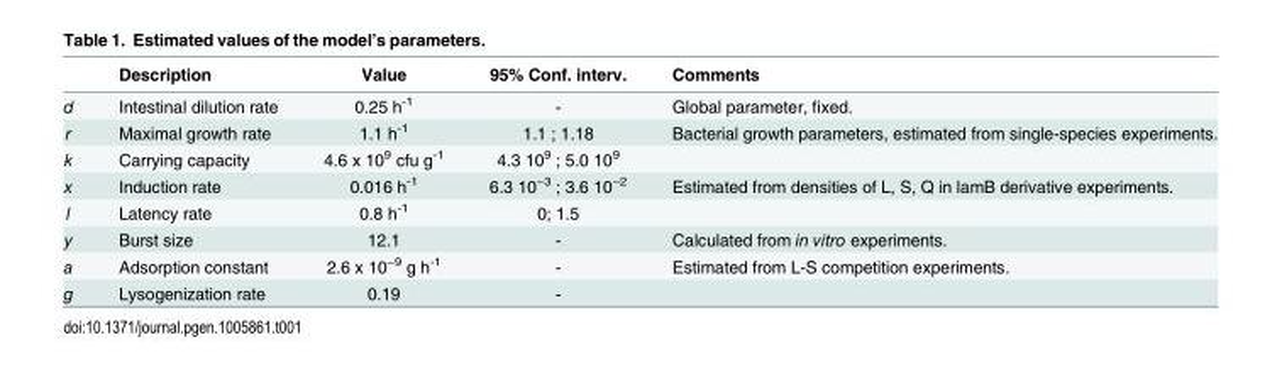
<table><thead><tr><td></td><td>Description</td><td>Value</td><td>95% Conf. interv.</td><td>Comments</td></tr></thead><tbody><tr><td>d</td><td>Intestinal dilution rate</td><td>0.25 h<sup>-1</sup></td><td>-</td><td>Global parameter, fixed.</td></tr><tr><td>r</td><td>Maximal growth rate</td><td>1.1 h<sup>-1</sup></td><td>1.1 ; 1.18</td><td>Bacterial growth parameters, estimated from single-species experiments.</td></tr><tr><td>k</td><td>Carrying capacity</td><td>4.6 x 10<sup>9</sup> cfu g<sup>-1</sup></td><td>4.3 10<sup>9</sup> ; 5.0 10<sup>9</sup></td><td></td></tr><tr><td>x</td><td>Induction rate</td><td>0.016 h<sup>-1</sup></td><td>6.3 10<sup>−3</sup> ; 3.6 10<sup>−2</sup></td><td>Estimated from densities of L, S, Q in lamB derivative experiments.</td></tr><tr><td>l</td><td>Latency rate</td><td>0.8 h<sup>-1</sup></td><td>0; 1.5</td><td></td></tr><tr><td>y</td><td>Burst size</td><td>12.1</td><td>-</td><td>Calculated from in vitro experiments.</td></tr><tr><td>a</td><td>Adsorption constant</td><td>2.6 x 10<sup>−9</sup> g h<sup>-1</sup></td><td>-</td><td>Estimated from L-S competition experiments.</td></tr><tr><td>g</td><td>Lysogenization rate</td><td>0.19</td><td>-</td><td></td></tr></tbody></table>